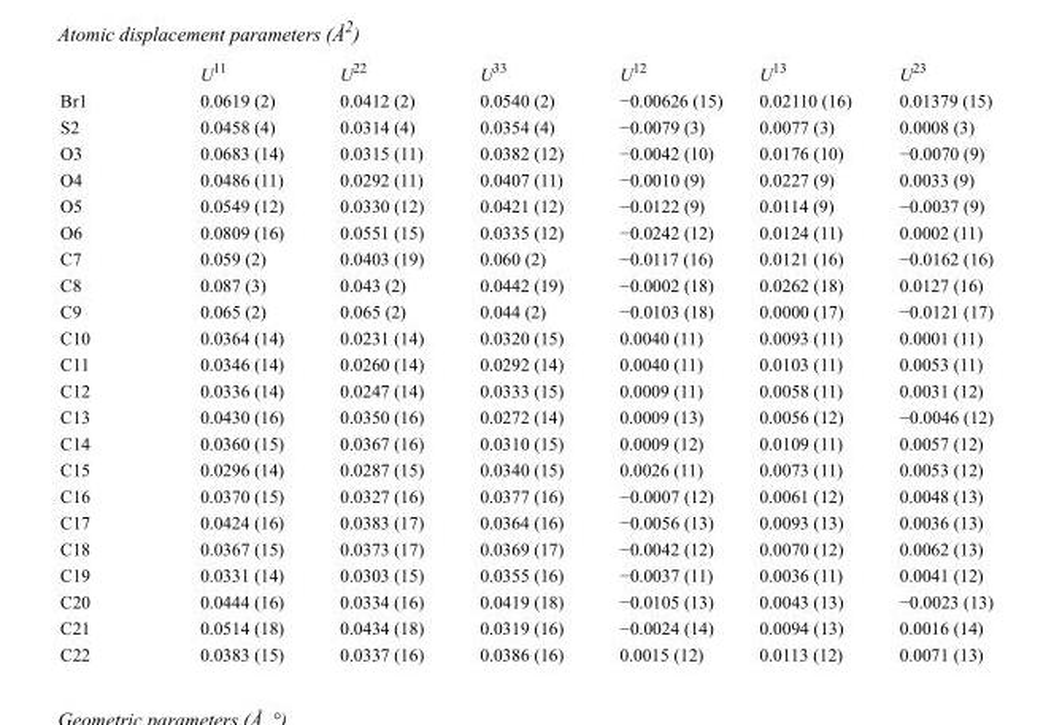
<table><thead><tr><td></td><td>U<sup>11</sup></td><td>U<sup>22</sup></td><td>U<sup>33</sup></td><td>U<sup>12</sup></td><td>U<sup>13</sup></td><td>U<sup>23</sup></td></tr></thead><tbody><tr><td>Br1</td><td>0.0619 (2)</td><td>0.0412 (2)</td><td>0.0540 (2)</td><td>−0.00626 (15)</td><td>0.02110 (16)</td><td>0.01379 (15)</td></tr><tr><td>S2</td><td>0.0458 (4)</td><td>0.0314 (4)</td><td>0.0354 (4)</td><td>−0.0079 (3)</td><td>0.0077 (3)</td><td>0.0008 (3)</td></tr><tr><td>O3</td><td>0.0683 (14)</td><td>0.0315 (11)</td><td>0.0382 (12)</td><td>−0.0042 (10)</td><td>0.0176 (10)</td><td>−0.0070 (9)</td></tr><tr><td>O4</td><td>0.0486 (11)</td><td>0.0292 (11)</td><td>0.0407 (11)</td><td>−0.0010 (9)</td><td>0.0227 (9)</td><td>0.0033 (9)</td></tr><tr><td>O5</td><td>0.0549 (12)</td><td>0.0330 (12)</td><td>0.0421 (12)</td><td>−0.0122 (9)</td><td>0.0114 (9)</td><td>−0.0037 (9)</td></tr><tr><td>O6</td><td>0.0809 (16)</td><td>0.0551 (15)</td><td>0.0335 (12)</td><td>−0.0242 (12)</td><td>0.0124 (11)</td><td>0.0002 (11)</td></tr><tr><td>C7</td><td>0.059 (2)</td><td>0.0403 (19)</td><td>0.060 (2)</td><td>−0.0117 (16)</td><td>0.0121 (16)</td><td>−0.0162 (16)</td></tr><tr><td>C8</td><td>0.087 (3)</td><td>0.043 (2)</td><td>0.0442 (19)</td><td>−0.0002 (18)</td><td>0.0262 (18)</td><td>0.0127 (16)</td></tr><tr><td>C9</td><td>0.065 (2)</td><td>0.065 (2)</td><td>0.044 (2)</td><td>−0.0103 (18)</td><td>0.0000 (17)</td><td>−0.0121 (17)</td></tr><tr><td>C10</td><td>0.0364 (14)</td><td>0.0231 (14)</td><td>0.0320 (15)</td><td>0.0040 (11)</td><td>0.0093 (11)</td><td>0.0001 (11)</td></tr><tr><td>C11</td><td>0.0346 (14)</td><td>0.0260 (14)</td><td>0.0292 (14)</td><td>0.0040 (11)</td><td>0.0103 (11)</td><td>0.0053 (11)</td></tr><tr><td>C12</td><td>0.0336 (14)</td><td>0.0247 (14)</td><td>0.0333 (15)</td><td>0.0009 (11)</td><td>0.0058 (11)</td><td>0.0031 (12)</td></tr><tr><td>C13</td><td>0.0430 (16)</td><td>0.0350 (16)</td><td>0.0272 (14)</td><td>0.0009 (13)</td><td>0.0056 (12)</td><td>−0.0046 (12)</td></tr><tr><td>C14</td><td>0.0360 (15)</td><td>0.0367 (16)</td><td>0.0310 (15)</td><td>0.0009 (12)</td><td>0.0109 (11)</td><td>0.0057 (12)</td></tr><tr><td>C15</td><td>0.0296 (14)</td><td>0.0287 (15)</td><td>0.0340 (15)</td><td>0.0026 (11)</td><td>0.0073 (11)</td><td>0.0053 (12)</td></tr><tr><td>C16</td><td>0.0370 (15)</td><td>0.0327 (16)</td><td>0.0377 (16)</td><td>−0.0007 (12)</td><td>0.0061 (12)</td><td>0.0048 (13)</td></tr><tr><td>C17</td><td>0.0424 (16)</td><td>0.0383 (17)</td><td>0.0364 (16)</td><td>−0.0056 (13)</td><td>0.0093 (13)</td><td>0.0036 (13)</td></tr><tr><td>C18</td><td>0.0367 (15)</td><td>0.0373 (17)</td><td>0.0369 (17)</td><td>−0.0042 (12)</td><td>0.0070 (12)</td><td>0.0062 (13)</td></tr><tr><td>C19</td><td>0.0331 (14)</td><td>0.0303 (15)</td><td>0.0355 (16)</td><td>−0.0037 (11)</td><td>0.0036 (11)</td><td>0.0041 (12)</td></tr><tr><td>C20</td><td>0.0444 (16)</td><td>0.0334 (16)</td><td>0.0419 (18)</td><td>−0.0105 (13)</td><td>0.0043 (13)</td><td>−0.0023 (13)</td></tr><tr><td>C21</td><td>0.0514 (18)</td><td>0.0434 (18)</td><td>0.0319 (16)</td><td>−0.0024 (14)</td><td>0.0094 (13)</td><td>0.0016 (14)</td></tr><tr><td>C22</td><td>0.0383 (15)</td><td>0.0337 (16)</td><td>0.0386 (16)</td><td>0.0015 (12)</td><td>0.0113 (12)</td><td>0.0071 (13)</td></tr></tbody></table>